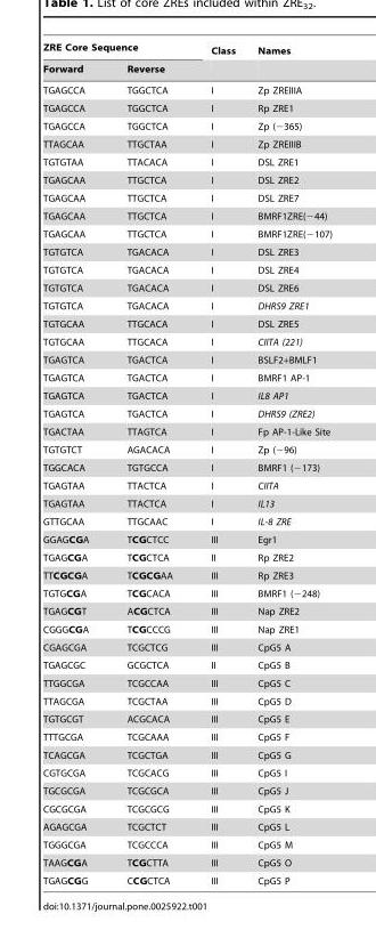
<table><thead><tr><td colspan="2">ZRE Core Sequence</td><td rowspan="2">Class</td><td rowspan="2">Names</td></tr><tr><td>Forward</td><td>Reverse</td></tr></thead><tbody><tr><td>TGAGCCA</td><td>TGGCTCA</td><td>I</td><td>Zp ZREIIIA</td></tr><tr><td>TGAGCCA</td><td>TGGCTCA</td><td>I</td><td>Rp ZRE1</td></tr><tr><td>TGAGCCA</td><td>TGGCTCA</td><td>I</td><td>Zp (−365)</td></tr><tr><td>TTAGCAA</td><td>TTGCTAA</td><td>I</td><td>Zp ZREIIIB</td></tr><tr><td>TGTGTAA</td><td>TTACACA</td><td>I</td><td>DSL ZRE1</td></tr><tr><td>TGAGCAA</td><td>TTGCTCA</td><td>I</td><td>DSL ZRE2</td></tr><tr><td>TGAGCAA</td><td>TTGCTCA</td><td>I</td><td>DSL ZRE7</td></tr><tr><td>TGAGCAA</td><td>TTGCTCA</td><td>I</td><td>BMRF1ZRE(−44)</td></tr><tr><td>TGAGCAA</td><td>TTGCTCA</td><td>I</td><td>BMRF1ZRE(−107)</td></tr><tr><td>TGTGTCA</td><td>TGACACA</td><td>I</td><td>DSL ZRE3</td></tr><tr><td>TGTGTCA</td><td>TGACACA</td><td>I</td><td>DSL ZRE4</td></tr><tr><td>TGTGTCA</td><td>TGACACA</td><td>I</td><td>DSL ZRE6</td></tr><tr><td>TGTGTCA</td><td>TGACACA</td><td>I</td><td>DHRS9 ZRE1</td></tr><tr><td>TGTGCAA</td><td>TTGCACA</td><td>I</td><td>DSL ZRE5</td></tr><tr><td>TGTGCAA</td><td>TTGCACA</td><td>I</td><td>CIITA (221)</td></tr><tr><td>TGAGTCA</td><td>TGACTCA</td><td>I</td><td>BSLF2+BMLF1</td></tr><tr><td>TGAGTCA</td><td>TGACTCA</td><td>I</td><td>BMRF1 AP-1</td></tr><tr><td>TGAGTCA</td><td>TGACTCA</td><td>I</td><td>IL8 AP1</td></tr><tr><td>TGAGTCA</td><td>TGACTCA</td><td>I</td><td>DHRS9 (ZRE2)</td></tr><tr><td>TGACTAA</td><td>TTAGTCA</td><td>I</td><td>Fp AP-1-Like Site</td></tr><tr><td>TGTGTCT</td><td>AGACACA</td><td>I</td><td>Zp (−96)</td></tr><tr><td>TGGCACA</td><td>TGTGCCA</td><td>I</td><td>BMRF1 (−173)</td></tr><tr><td>TGAGTAA</td><td>TTACTCA</td><td>I</td><td>CIITA</td></tr><tr><td>TGAGTAA</td><td>TTACTCA</td><td>I</td><td>IL13</td></tr><tr><td>GTTGCAA</td><td>TTGCAAC</td><td>I</td><td>IL-8 ZRE</td></tr><tr><td>GGAGCGA</td><td>TCGCTCC</td><td>III</td><td>Egr1</td></tr><tr><td>TGAGCGA</td><td>TCGCTCA</td><td>II</td><td>Rp ZRE2</td></tr><tr><td>TTCGCGA</td><td>TCGCGAA</td><td>III</td><td>Rp ZRE3</td></tr><tr><td>TGTGCGA</td><td>TCGCACA</td><td>III</td><td>BMRF1 (−248)</td></tr><tr><td>TGAGCGT</td><td>ACGCTCA</td><td>III</td><td>Nap ZRE2</td></tr><tr><td>CGGGCGA</td><td>TCGCCCG</td><td>III</td><td>Nap ZRE1</td></tr><tr><td>CGAGCGA</td><td>TCGCTCG</td><td>III</td><td>CpG5 A</td></tr><tr><td>TGAGCGC</td><td>GCGCTCA</td><td>II</td><td>CpG5 B</td></tr><tr><td>TTGGCGA</td><td>TCGCCAA</td><td>III</td><td>CpG5 C</td></tr><tr><td>TTAGCGA</td><td>TCGCTAA</td><td>III</td><td>CpG5 D</td></tr><tr><td>TGTGCGT</td><td>ACGCACA</td><td>III</td><td>CpG5 E</td></tr><tr><td>TTTGCGA</td><td>TCGCAAA</td><td>III</td><td>CpG5 F</td></tr><tr><td>TCAGCGA</td><td>TCGCTGA</td><td>III</td><td>CpG5 G</td></tr><tr><td>CGTGCGA</td><td>TCGCACG</td><td>III</td><td>CpG5 I</td></tr><tr><td>TGCGCGA</td><td>TCGCGCA</td><td>III</td><td>CpG5 J</td></tr><tr><td>CGCGCGA</td><td>TCGCGCG</td><td>III</td><td>CpG5 K</td></tr><tr><td>AGAGCGA</td><td>TCGCTCT</td><td>III</td><td>CpG5 L</td></tr><tr><td>TGGGCGA</td><td>TCGCCCA</td><td>III</td><td>CpG5 M</td></tr><tr><td>TAAGCGA</td><td>TCGCTTA</td><td>III</td><td>CpG5 O</td></tr><tr><td>TGAGCGG</td><td>CCGCTCA</td><td>III</td><td>CpG5 P</td></tr></tbody></table>